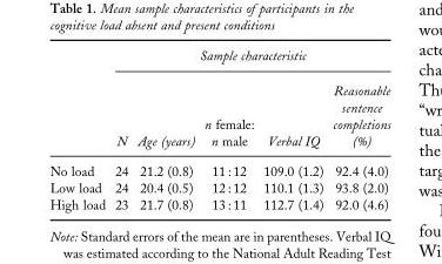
<table><thead><tr><td rowspan="2"></td><td colspan="5">Sample characteristic</td></tr><tr><td>N</td><td>Age (years)</td><td>n female: n male</td><td>Verbal IQ</td><td>Reasonable sentence completions (%)</td></tr></thead><tbody><tr><td>No load</td><td>24</td><td>21.2 (0.8)</td><td>11 : 12</td><td>109.0 (1.2)</td><td>92.4 (4.0)</td></tr><tr><td>Low load</td><td>24</td><td>20.4 (0.5)</td><td>12 : 12</td><td>110.1 (1.3)</td><td>93.8 (2.0)</td></tr><tr><td>High load</td><td>23</td><td>21.7 (0.8)</td><td>13 : 11</td><td>112.7 (1.4)</td><td>92.0 (4.6)</td></tr></tbody></table>